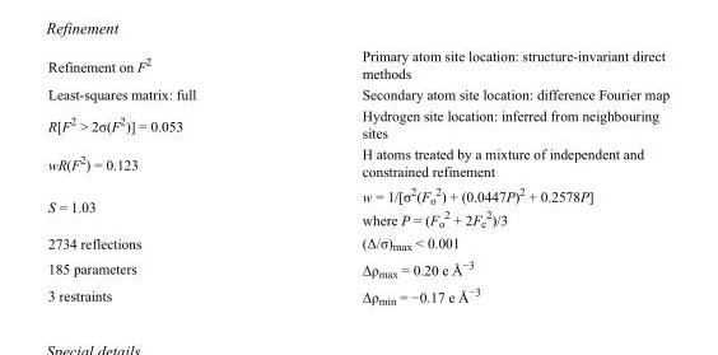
<table><tbody><tr><td>Refinement on F<sup>2</sup></td><td>Primary atom site location: structure-invariant direct methods</td></tr><tr><td>Least-squares matrix: full</td><td>Secondary atom site location: difference Fourier map</td></tr><tr><td>R[F<sup>2</sup> &gt; 2σ(F<sup>2</sup>)] = 0.053</td><td>Hydrogen site location: inferred from neighbouring sites</td></tr><tr><td>wR(F<sup>2</sup>) = 0.123</td><td>H atoms treated by a mixture of independent and constrained refinement</td></tr><tr><td>S = 1.03</td><td>w = 1/[σ<sup>2</sup>(F<sub>o</sub> <sup>2</sup>) + (0.0447P)<sup>2</sup> + 0.2578P] where P = (F<sub>o</sub> <sup>2</sup> + 2F<sub>c</sub> <sup>2</sup>)/3</td></tr><tr><td>2734 reflections</td><td>(Δ/σ)<sub>max</sub> &lt; 0.001</td></tr><tr><td>185 parameters</td><td>Δρ<sub>max</sub> = 0.20 e Å<sup>−3</sup></td></tr><tr><td>3 restraints</td><td>Δρ<sub>min</sub> = −0.17 e Å<sup>−3</sup></td></tr></tbody></table>